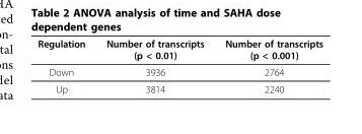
<table><thead><tr><td>Regulation</td><td>Number of transcripts (p &lt; 0.01)</td><td>Number of transcripts (p &lt; 0.001)</td></tr></thead><tbody><tr><td>Down</td><td>3936</td><td>2764</td></tr><tr><td>Up</td><td>3814</td><td>2240</td></tr></tbody></table>